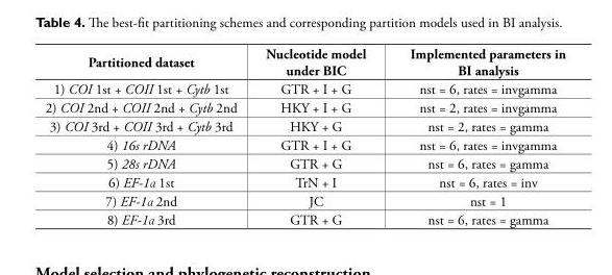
<table><thead><tr><td>Partitioned dataset</td><td>Nucleotide model under BIC</td><td>Implemented parameters in BI analysis</td></tr></thead><tbody><tr><td>1) COI 1st + COII 1st + Cytb 1st</td><td>GTR + I + G</td><td>nst = 6, rates = invgamma</td></tr><tr><td>2) COI 2nd + COII 2nd + Cytb 2nd</td><td>HKY + I + G</td><td>nst = 2, rates = invgamma</td></tr><tr><td>3) COI 3rd + COII 3rd + Cytb 3rd</td><td>HKY + G</td><td>nst = 2, rates = gamma</td></tr><tr><td>4) 16s rDNA</td><td>GTR + I + G</td><td>nst = 6, rates = invgamma</td></tr><tr><td>5) 28s rDNA</td><td>GTR + G</td><td>nst = 6, rates = gamma</td></tr><tr><td>6) EF-1α 1st</td><td>TrN + I</td><td>nst = 6, rates = inv</td></tr><tr><td>7) EF-1α 2nd</td><td>JC</td><td>nst = 1</td></tr><tr><td>8) EF-1α 3rd</td><td>GTR + G</td><td>nst = 6, rates = gamma</td></tr></tbody></table>